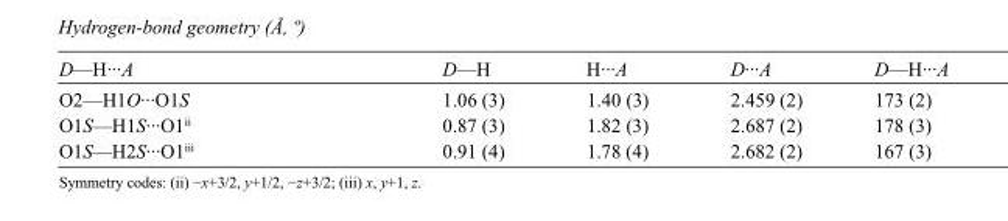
<table><tbody><tr><td>D—H···A</td><td>D—H</td><td>H···A</td><td>D···A</td><td>D—H···A</td></tr><tr><td>O2—H1O···O1S</td><td>1.06 (3)</td><td>1.40 (3)</td><td>2.459 (2)</td><td>173 (2)</td></tr><tr><td>O1S—H1S···O1<sup>ii</sup></td><td>0.87 (3)</td><td>1.82 (3)</td><td>2.687 (2)</td><td>178 (3)</td></tr><tr><td>O1S—H2S···O1<sup>iii</sup></td><td>0.91 (4)</td><td>1.78 (4)</td><td>2.682 (2)</td><td>167 (3)</td></tr></tbody></table>